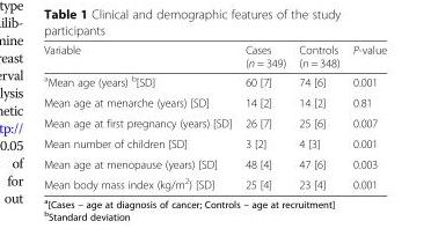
<table><thead><tr><td>Variable</td><td>Cases (n = 349)</td><td>Controls (n = 348)</td><td>P-value</td></tr></thead><tbody><tr><td><sup>a</sup>Mean age (years) <sup>b</sup>[SD]</td><td>60 [7]</td><td>74 [6]</td><td>0.001</td></tr><tr><td>Mean age at menarche (years) [SD]</td><td>14 [2]</td><td>14 [2]</td><td>0.81</td></tr><tr><td>Mean age at first pregnancy (years) [SD]</td><td>26 [7]</td><td>25 [6]</td><td>0.007</td></tr><tr><td>Mean number of children [SD]</td><td>3 [2]</td><td>4 [3]</td><td>0.001</td></tr><tr><td>Mean age at menopause (years) [SD]</td><td>48 [4]</td><td>47 [6]</td><td>0.003</td></tr><tr><td>Mean body mass index (kg/m<sup>2</sup>) [SD]</td><td>25 [4]</td><td>23 [4]</td><td>0.001</td></tr></tbody></table>